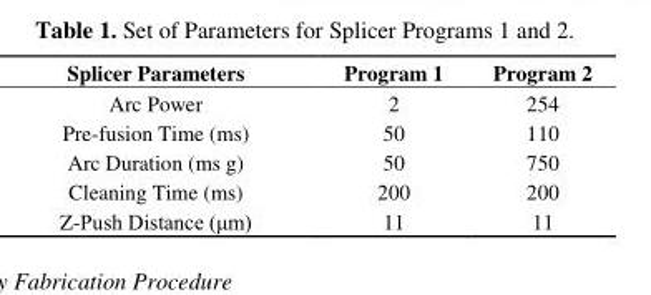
<table><thead><tr><td>Splicer Parameters</td><td>Program 1</td><td>Program 2</td></tr></thead><tbody><tr><td>Arc Power</td><td>2</td><td>254</td></tr><tr><td>Pre-fusion Time (ms)</td><td>50</td><td>110</td></tr><tr><td>Arc Duration (ms g)</td><td>50</td><td>750</td></tr><tr><td>Cleaning Time (ms)</td><td>200</td><td>200</td></tr><tr><td>Z-Push Distance (μm)</td><td>11</td><td>11</td></tr></tbody></table>